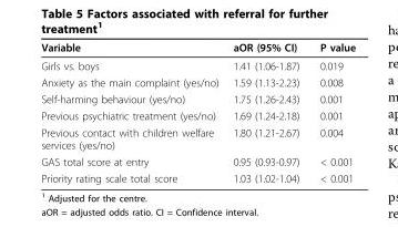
<table><thead><tr><td>Variable</td><td>aOR (95% CI)</td><td>P value</td></tr></thead><tbody><tr><td>Girls vs. boys</td><td>1.41 (1.06-1.87)</td><td>0.019</td></tr><tr><td>Anxiety as the main complaint (yes/no)</td><td>1.59 (1.13-2.23)</td><td>0.008</td></tr><tr><td>Self-harming behaviour (yes/no)</td><td>1.75 (1.26-2.43)</td><td>0.001</td></tr><tr><td>Previous psychiatric treatment (yes/no)</td><td>1.69 (1.24-2.18)</td><td>0.001</td></tr><tr><td>Previous contact with children welfare services (yes/no)</td><td>1.80 (1.21-2.67)</td><td>0.004</td></tr><tr><td>GAS total score at entry</td><td>0.95 (0.93-0.97)</td><td>&lt; 0.001</td></tr><tr><td>Priority rating scale total score</td><td>1.03 (1.02-1.04)</td><td>&lt; 0.001</td></tr></tbody></table>